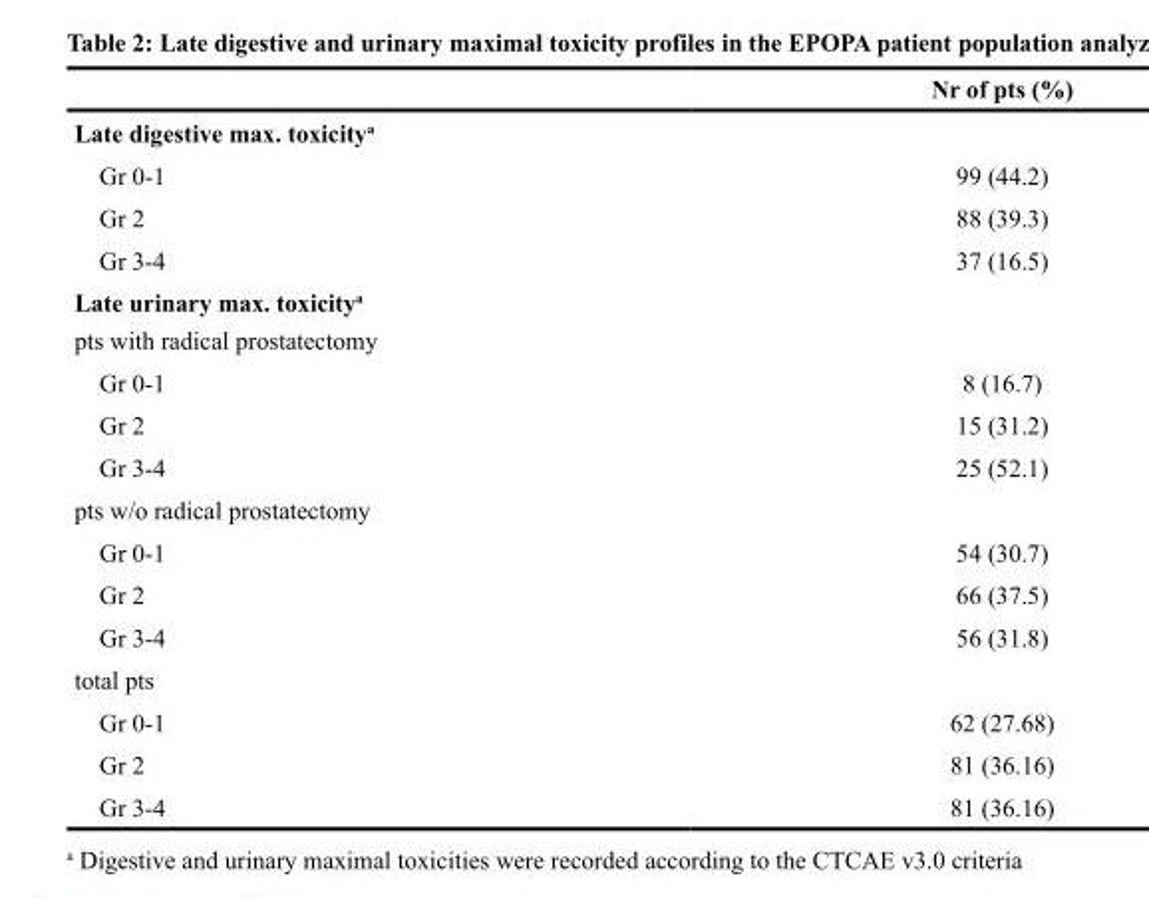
<table><thead><tr><td></td><td>Nr of pts (%)</td></tr></thead><tbody><tr><td colspan="2">Late digestive max. toxicity<sup>a</sup></td></tr><tr><td>Gr 0-1</td><td>99 (44.2)</td></tr><tr><td>Gr 2</td><td>88 (39.3)</td></tr><tr><td>Gr 3-4</td><td>37 (16.5)</td></tr><tr><td colspan="2">Late urinary max. toxicity<sup>a</sup> pts with radical prostatectomy</td></tr><tr><td>Gr 0-1</td><td>8 (16.7)</td></tr><tr><td>Gr 2</td><td>15 (31.2)</td></tr><tr><td>Gr 3-4</td><td>25 (52.1)</td></tr><tr><td colspan="2">pts w/o radical prostatectomy</td></tr><tr><td>Gr 0-1</td><td>54 (30.7)</td></tr><tr><td>Gr 2</td><td>66 (37.5)</td></tr><tr><td>Gr 3-4</td><td>56 (31.8)</td></tr><tr><td colspan="2">total pts</td></tr><tr><td>Gr 0-1</td><td>62 (27.68)</td></tr><tr><td>Gr 2</td><td>81 (36.16)</td></tr><tr><td>Gr 3-4</td><td>81 (36.16)</td></tr></tbody></table>